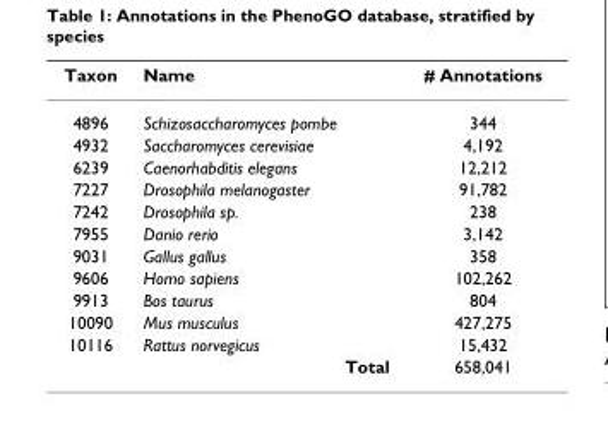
<table><thead><tr><td>Taxon</td><td>Name</td><td># Annotations</td></tr></thead><tbody><tr><td>4896</td><td>Schizosaccharomyces pombe</td><td>344</td></tr><tr><td>4932</td><td>Saccharomyces cerevisiae</td><td>4,192</td></tr><tr><td>6239</td><td>Caenorhabditis elegans</td><td>12,212</td></tr><tr><td>7227</td><td>Drosophila melanogaster</td><td>91,782</td></tr><tr><td>7242</td><td>Drosophila sp.</td><td>238</td></tr><tr><td>7955</td><td>Danio rerio</td><td>3,142</td></tr><tr><td>9031</td><td>Gallus gallus</td><td>358</td></tr><tr><td>9606</td><td>Homo sapiens</td><td>102,262</td></tr><tr><td>9913</td><td>Bos taurus</td><td>804</td></tr><tr><td>10090</td><td>Mus musculus</td><td>427,275</td></tr><tr><td>10116</td><td>Rattus norvegicus</td><td>15,432</td></tr><tr><td colspan="2">Total</td><td>658,041</td></tr></tbody></table>